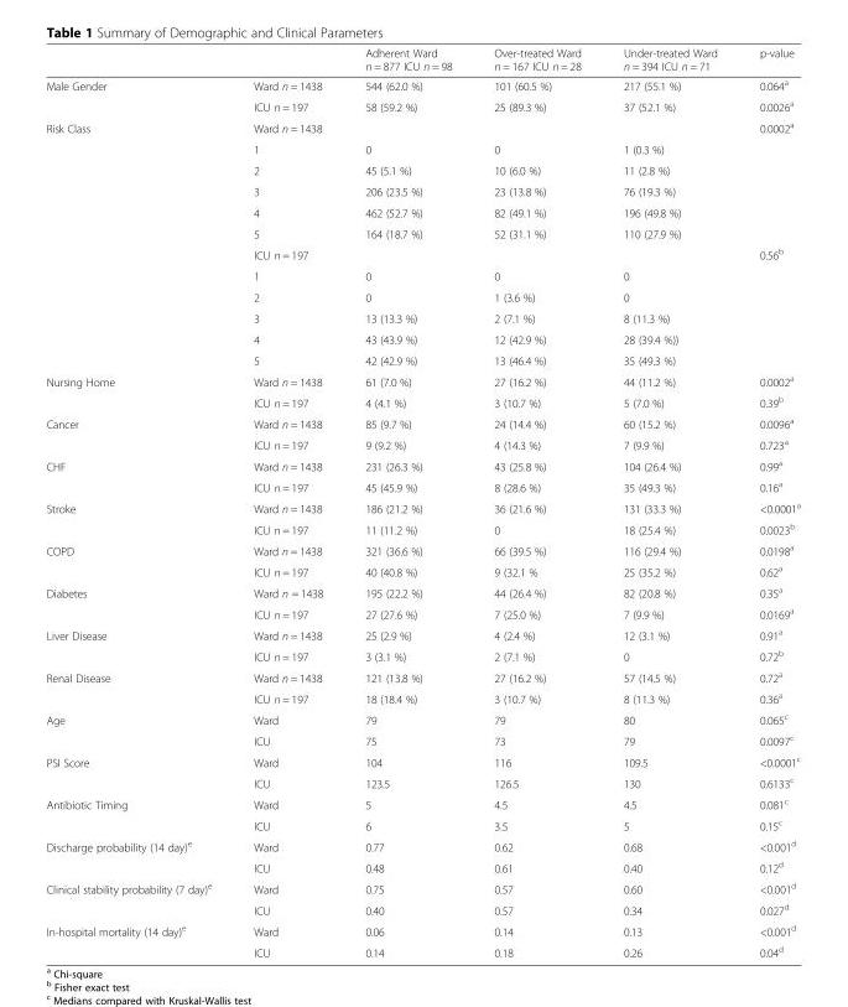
<table><thead><tr><td></td><td></td><td>Adherent Ward n = 877 ICU n = 98</td><td>Over-treated Ward n = 167 ICU n = 28</td><td>Under-treated Ward n = 394 ICU n = 71</td><td>p-value</td></tr></thead><tbody><tr><td rowspan="2">Male Gender</td><td>Ward n = 1438</td><td>544 (62.0 %)</td><td>101 (60.5 %)</td><td>217 (55.1 %)</td><td>0.064<sup>a</sup></td></tr><tr><td>ICU n = 197</td><td>58 (59.2 %)</td><td>25 (89.3 %)</td><td>37 (52.1 %)</td><td>0.0026<sup>a</sup></td></tr><tr><td rowspan="12">Risk Class</td><td>Ward n = 1438</td><td></td><td></td><td></td><td>0.0002<sup>a</sup></td></tr><tr><td>1</td><td>0</td><td>0</td><td>1 (0.3 %)</td><td></td></tr><tr><td>2</td><td>45 (5.1 %)</td><td>10 (6.0 %)</td><td>11 (2.8 %)</td><td></td></tr><tr><td>3</td><td>206 (23.5 %)</td><td>23 (13.8 %)</td><td>76 (19.3 %)</td><td></td></tr><tr><td>4</td><td>462 (52.7 %)</td><td>82 (49.1 %)</td><td>196 (49.8 %)</td><td></td></tr><tr><td>5</td><td>164 (18.7 %)</td><td>52 (31.1 %)</td><td>110 (27.9 %)</td><td></td></tr><tr><td>ICU n = 197</td><td></td><td></td><td></td><td>0.56<sup>b</sup></td></tr><tr><td>1</td><td>0</td><td>0</td><td>0</td><td></td></tr><tr><td>2</td><td>0</td><td>1 (3.6 %)</td><td>0</td><td></td></tr><tr><td>3</td><td>13 (13.3 %)</td><td>2 (7.1 %)</td><td>8 (11.3 %)</td><td></td></tr><tr><td>4</td><td>43 (43.9 %)</td><td>12 (42.9 %)</td><td>28 (39.4 %))</td><td></td></tr><tr><td>5</td><td>42 (42.9 %)</td><td>13 (46.4 %)</td><td>35 (49.3 %)</td><td></td></tr><tr><td rowspan="2">Nursing Home</td><td>Ward n = 1438</td><td>61 (7.0 %)</td><td>27 (16.2 %)</td><td>44 (11.2 %)</td><td>0.0002<sup>a</sup></td></tr><tr><td>ICU n = 197</td><td>4 (4.1 %)</td><td>3 (10.7 %)</td><td>5 (7.0 %)</td><td>0.39<sup>b</sup></td></tr><tr><td rowspan="2">Cancer</td><td>Ward n = 1438</td><td>85 (9.7 %)</td><td>24 (14.4 %)</td><td>60 (15.2 %)</td><td>0.0096<sup>a</sup></td></tr><tr><td>ICU n = 197</td><td>9 (9.2 %)</td><td>4 (14.3 %)</td><td>7 (9.9 %)</td><td>0.723<sup>a</sup></td></tr><tr><td rowspan="2">CHF</td><td>Ward n = 1438</td><td>231 (26.3 %)</td><td>43 (25.8 %)</td><td>104 (26.4 %)</td><td>0.99<sup>a</sup></td></tr><tr><td>ICU n = 197</td><td>45 (45.9 %)</td><td>8 (28.6 %)</td><td>35 (49.3 %)</td><td>0.16<sup>a</sup></td></tr><tr><td rowspan="2">Stroke</td><td>Ward n = 1438</td><td>186 (21.2 %)</td><td>36 (21.6 %)</td><td>131 (33.3 %)</td><td>&lt;0.0001<sup>a</sup></td></tr><tr><td>ICU n = 197</td><td>11 (11.2 %)</td><td>0</td><td>18 (25.4 %)</td><td>0.0023<sup>b</sup></td></tr><tr><td rowspan="2">COPD</td><td>Ward n = 1438</td><td>321 (36.6 %)</td><td>66 (39.5 %)</td><td>116 (29.4 %)</td><td>0.0198<sup>a</sup></td></tr><tr><td>ICU n = 197</td><td>40 (40.8 %)</td><td>9 (32.1 %</td><td>25 (35.2 %)</td><td>0.62<sup>a</sup></td></tr><tr><td rowspan="2">Diabetes</td><td>Ward n = 1438</td><td>195 (22.2 %)</td><td>44 (26.4 %)</td><td>82 (20.8 %)</td><td>0.35<sup>a</sup></td></tr><tr><td>ICU n = 197</td><td>27 (27.6 %)</td><td>7 (25.0 %)</td><td>7 (9.9 %)</td><td>0.0169<sup>a</sup></td></tr><tr><td rowspan="2">Liver Disease</td><td>Ward n = 1438</td><td>25 (2.9 %)</td><td>4 (2.4 %)</td><td>12 (3.1 %)</td><td>0.91<sup>a</sup></td></tr><tr><td>ICU n = 197</td><td>3 (3.1 %)</td><td>2 (7.1 %)</td><td>0</td><td>0.72<sup>b</sup></td></tr><tr><td rowspan="2">Renal Disease</td><td>Ward n = 1438</td><td>121 (13.8 %)</td><td>27 (16.2 %)</td><td>57 (14.5 %)</td><td>0.72<sup>a</sup></td></tr><tr><td>ICU n = 197</td><td>18 (18.4 %)</td><td>3 (10.7 %)</td><td>8 (11.3 %)</td><td>0.36<sup>a</sup></td></tr><tr><td rowspan="2">Age</td><td>Ward</td><td>79</td><td>79</td><td>80</td><td>0.065<sup>c</sup></td></tr><tr><td>ICU</td><td>75</td><td>73</td><td>79</td><td>0.0097<sup>c</sup></td></tr><tr><td rowspan="2">PSI Score</td><td>Ward</td><td>104</td><td>116</td><td>109.5</td><td>&lt;0.0001<sup>c</sup></td></tr><tr><td>ICU</td><td>123.5</td><td>126.5</td><td>130</td><td>0.6133<sup>c</sup></td></tr><tr><td rowspan="2">Antibiotic Timing</td><td>Ward</td><td>5</td><td>4.5</td><td>4.5</td><td>0.081<sup>c</sup></td></tr><tr><td>ICU</td><td>6</td><td>3.5</td><td>5</td><td>0.15<sup>c</sup></td></tr><tr><td rowspan="2">Discharge probability (14 day)<sup>e</sup></td><td>Ward</td><td>0.77</td><td>0.62</td><td>0.68</td><td>&lt;0.001<sup>d</sup></td></tr><tr><td>ICU</td><td>0.48</td><td>0.61</td><td>0.40</td><td>0.12<sup>d</sup></td></tr><tr><td rowspan="2">Clinical stability probability (7 day)<sup>e</sup></td><td>Ward</td><td>0.75</td><td>0.57</td><td>0.60</td><td>&lt;0.001<sup>d</sup></td></tr><tr><td>ICU</td><td>0.40</td><td>0.57</td><td>0.34</td><td>0.027<sup>d</sup></td></tr><tr><td rowspan="2">In-hospital mortality (14 day)<sup>e</sup></td><td>Ward</td><td>0.06</td><td>0.14</td><td>0.13</td><td>&lt;0.001<sup>d</sup></td></tr><tr><td>ICU</td><td>0.14</td><td>0.18</td><td>0.26</td><td>0.04<sup>d</sup></td></tr></tbody></table>